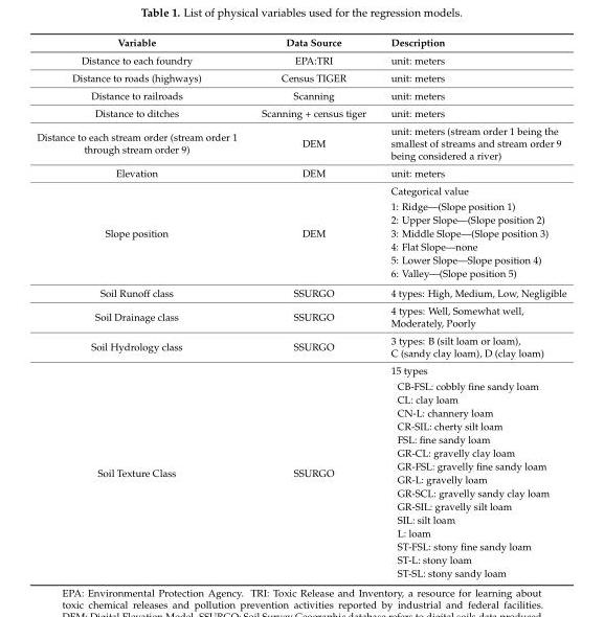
<table><thead><tr><td>Variable</td><td>Data Source</td><td>Description</td></tr></thead><tbody><tr><td>Distance to each foundry</td><td>EPA:TRI</td><td>unit: meters</td></tr><tr><td>Distance to roads (highways)</td><td>Census TIGER</td><td>unit: meters</td></tr><tr><td>Distance to railroads</td><td>Scanning</td><td>unit: meters</td></tr><tr><td>Distance to ditches</td><td>Scanning + census tiger</td><td>unit: meters</td></tr><tr><td>Distance to each stream order (stream order 1 through stream order 9)</td><td>DEM</td><td>unit: meters (stream order 1 being the smallest of streams and stream order 9 being considered a river)</td></tr><tr><td>Elevation</td><td>DEM</td><td>unit: meters</td></tr><tr><td>Slope position</td><td>DEM</td><td>Categorical value 1: Ridge—(Slope position 1) 2: Upper Slope—(Slope position 2) 3: Middle Slope—(Slope position 3) 4: Flat Slope—none 5: Lower Slope—Slope position 4) 6: Valley—(Slope position 5)</td></tr><tr><td>Soil Runoff class</td><td>SSURGO</td><td>4 types: High, Medium, Low, Negligible</td></tr><tr><td>Soil Drainage class</td><td>SSURGO</td><td>4 types: Well, Somewhat well, Moderately, Poorly</td></tr><tr><td>Soil Hydrology class</td><td>SSURGO</td><td>3 types: B (silt loam or loam), C (sandy clay loam), D (clay loam)</td></tr><tr><td>Soil Texture Class</td><td>SSURGO</td><td>15 types CB-FSL: cobbly fine sandy loam CL: clay loam CN-L: channery loam CR-SIL: cherty silt loam FSL: fine sandy loam GR-CL: gravelly clay loam GR-FSL: gravelly fine sandy loam GR-L: gravelly loam GR-SCL: gravelly sandy clay loam GR-SIL: gravelly silt loam SIL: silt loam L: loam ST-FSL: stony fine sandy loam ST-L: stony loam ST-SL: stony sandy loam</td></tr></tbody></table>